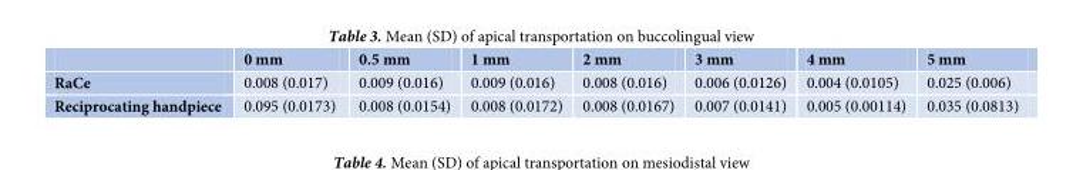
<table><thead><tr><td></td><td>0 mm</td><td>0.5 mm</td><td>1 mm</td><td>2 mm</td><td>3 mm</td><td>4 mm</td><td>5 mm</td></tr></thead><tbody><tr><td>RaCe</td><td>0.008 (0.017)</td><td>0.009 (0.016)</td><td>0.009 (0.016)</td><td>0.008 (0.016)</td><td>0.006 (0.0126)</td><td>0.004 (0.0105)</td><td>0.025 (0.006)</td></tr><tr><td>Reciprocating handpiece</td><td>0.095 (0.0173)</td><td>0.008 (0.0154)</td><td>0.008 (0.0172)</td><td>0.008 (0.0167)</td><td>0.007 (0.0141)</td><td>0.005 (0.00114)</td><td>0.035 (0.0813)</td></tr></tbody></table>